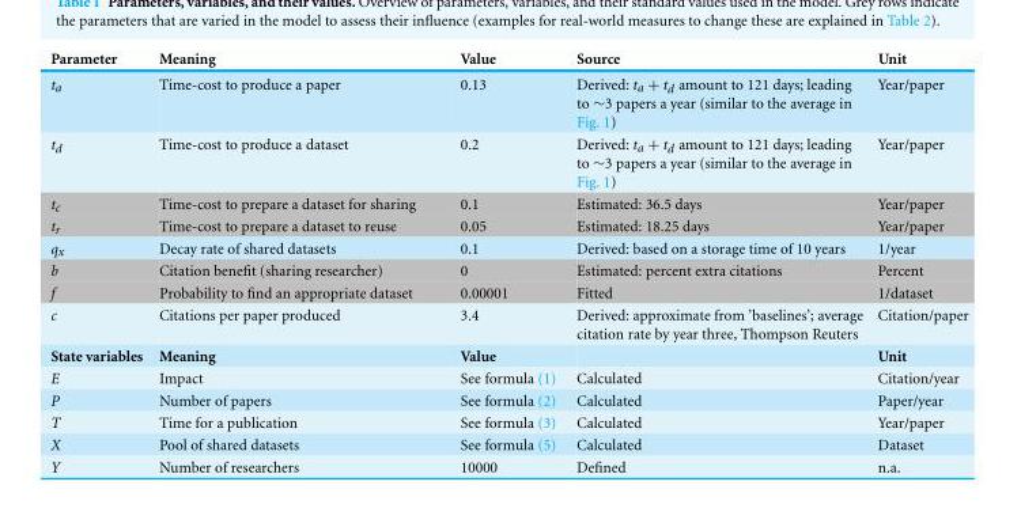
<table><thead><tr><td>Parameter</td><td>Meaning</td><td>Value</td><td>Source</td><td>Unit</td></tr></thead><tbody><tr><td>t<sub>a</sub></td><td>Time-cost to produce a paper</td><td>0.13</td><td>Derived: t<sub>a</sub> + t<sub>d</sub> amount to 121 days; leading to ∼3 papers a year (similar to the average in Fig. 1)</td><td>Year/paper</td></tr><tr><td>t<sub>d</sub></td><td>Time-cost to produce a dataset</td><td>0.2</td><td>Derived: t<sub>a</sub> + t<sub>d</sub> amount to 121 days; leading to ∼3 papers a year (similar to the average in Fig. 1)</td><td>Year/paper</td></tr><tr><td>t<sub>c</sub></td><td>Time-cost to prepare a dataset for sharing</td><td>0.1</td><td>Estimated: 36.5 days</td><td>Year/paper</td></tr><tr><td>t<sub>r</sub></td><td>Time-cost to prepare a dataset to reuse</td><td>0.05</td><td>Estimated: 18.25 days</td><td>Year/paper</td></tr><tr><td>q<sub>x</sub></td><td>Decay rate of shared datasets</td><td>0.1</td><td>Derived: based on a storage time of 10 years</td><td>1/year</td></tr><tr><td>b</td><td>Citation benefit (sharing researcher)</td><td>0</td><td>Estimated: percent extra citations</td><td>Percent</td></tr><tr><td>f</td><td>Probability to find an appropriate dataset</td><td>0.00001</td><td>Fitted</td><td>1/dataset</td></tr><tr><td>c</td><td>Citations per paper produced</td><td>3.4</td><td>Derived: approximate from ’baselines’; average citation rate by year three, Thompson Reuters</td><td>Citation/paper</td></tr><tr><td>State variables</td><td>Meaning</td><td>Value</td><td></td><td>Unit</td></tr><tr><td>E</td><td>Impact</td><td>See formula (1)</td><td>Calculated</td><td>Citation/year</td></tr><tr><td>P</td><td>Number of papers</td><td>See formula (2)</td><td>Calculated</td><td>Paper/year</td></tr><tr><td>T</td><td>Time for a publication</td><td>See formula (3)</td><td>Calculated</td><td>Year/paper</td></tr><tr><td>X</td><td>Pool of shared datasets</td><td>See formula (5)</td><td>Calculated</td><td>Dataset</td></tr><tr><td>Y</td><td>Number of researchers</td><td>10000</td><td>Defined</td><td>n.a.</td></tr></tbody></table>